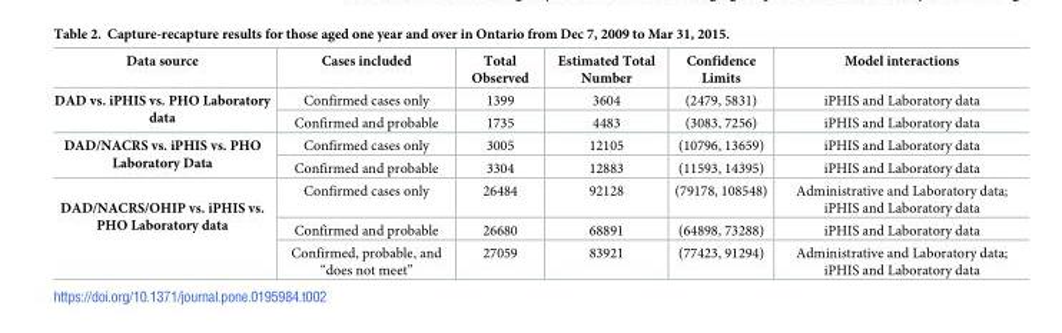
<table><thead><tr><td>Data source</td><td>Cases included</td><td>Total Observed</td><td>Estimated Total Number</td><td>Confidence Limits</td><td>Model interactions</td></tr></thead><tbody><tr><td rowspan="2">DAD vs. iPHIS vs. PHO Laboratory data</td><td>Confirmed cases only</td><td>1399</td><td>3604</td><td>(2479, 5831)</td><td>iPHIS and Laboratory data</td></tr><tr><td>Confirmed and probable</td><td>1735</td><td>4483</td><td>(3083, 7256)</td><td>iPHIS and Laboratory data</td></tr><tr><td rowspan="2">DAD/NACRS vs. iPHIS vs. PHO Laboratory Data</td><td>Confirmed cases only</td><td>3005</td><td>12105</td><td>(10796, 13659)</td><td>iPHIS and Laboratory data</td></tr><tr><td>Confirmed and probable</td><td>3304</td><td>12883</td><td>(11593, 14395)</td><td>iPHIS and Laboratory data</td></tr><tr><td rowspan="3">DAD/NACRS/OHIP vs. iPHIS vs. PHO Laboratory data</td><td>Confirmed cases only</td><td>26484</td><td>92128</td><td>(79178, 108548)</td><td>Administrative and Laboratory data; iPHIS and Laboratory data</td></tr><tr><td>Confirmed and probable</td><td>26680</td><td>68891</td><td>(64898, 73288)</td><td>iPHIS and Laboratory data</td></tr><tr><td>Confirmed, probable, and “does not meet”</td><td>27059</td><td>83921</td><td>(77423, 91294)</td><td>Administrative and Laboratory data; iPHIS and Laboratory data</td></tr></tbody></table>